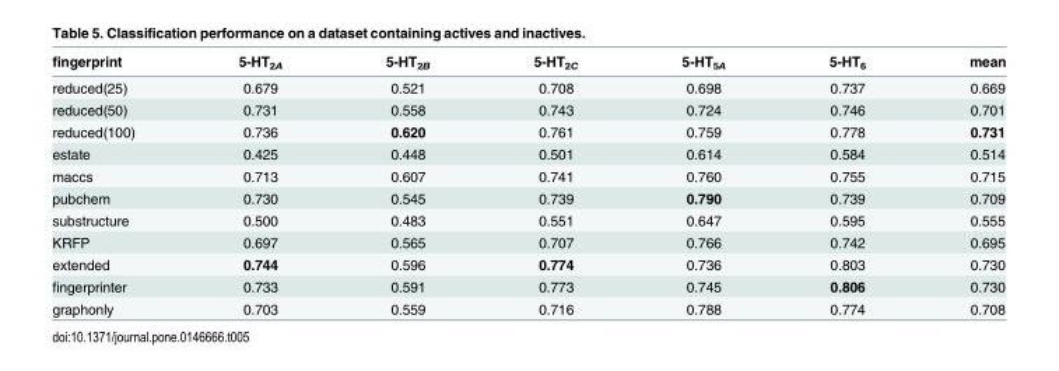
<table><thead><tr><td>fingerprint</td><td>5-HT<sub>2A</sub></td><td>5-HT<sub>2B</sub></td><td>5-HT<sub>2C</sub></td><td>5-HT<sub>5A</sub></td><td>5-HT<sub>6</sub></td><td>mean</td></tr></thead><tbody><tr><td>reduced(25)</td><td>0.679</td><td>0.521</td><td>0.708</td><td>0.698</td><td>0.737</td><td>0.669</td></tr><tr><td>reduced(50)</td><td>0.731</td><td>0.558</td><td>0.743</td><td>0.724</td><td>0.746</td><td>0.701</td></tr><tr><td>reduced(100)</td><td>0.736</td><td>0.620</td><td>0.761</td><td>0.759</td><td>0.778</td><td>0.731</td></tr><tr><td>estate</td><td>0.425</td><td>0.448</td><td>0.501</td><td>0.614</td><td>0.584</td><td>0.514</td></tr><tr><td>maccs</td><td>0.713</td><td>0.607</td><td>0.741</td><td>0.760</td><td>0.755</td><td>0.715</td></tr><tr><td>pubchem</td><td>0.730</td><td>0.545</td><td>0.739</td><td>0.790</td><td>0.739</td><td>0.709</td></tr><tr><td>substructure</td><td>0.500</td><td>0.483</td><td>0.551</td><td>0.647</td><td>0.595</td><td>0.555</td></tr><tr><td>KRFP</td><td>0.697</td><td>0.565</td><td>0.707</td><td>0.766</td><td>0.742</td><td>0.695</td></tr><tr><td>extended</td><td>0.744</td><td>0.596</td><td>0.774</td><td>0.736</td><td>0.803</td><td>0.730</td></tr><tr><td>fingerprinter</td><td>0.733</td><td>0.591</td><td>0.773</td><td>0.745</td><td>0.806</td><td>0.730</td></tr><tr><td>graphonly</td><td>0.703</td><td>0.559</td><td>0.716</td><td>0.788</td><td>0.774</td><td>0.708</td></tr></tbody></table>